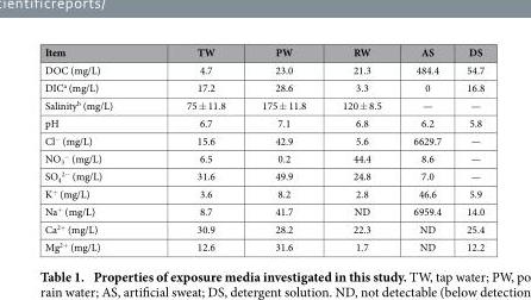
<table><thead><tr><td>Item</td><td>TW</td><td>PW</td><td>RW</td><td>AS</td><td>DS</td></tr></thead><tbody><tr><td>DOC (mg/L)</td><td>4.7</td><td>23.0</td><td>21.3</td><td>484.4</td><td>54.7</td></tr><tr><td>DIC<sup>a</sup> (mg/L)</td><td>17.2</td><td>28.6</td><td>3.3</td><td>0</td><td>16.8</td></tr><tr><td>Salinity<sup>b</sup> (mg/L)</td><td>75 ± 11.8</td><td>175 ± 11.8</td><td>120 ± 8.5</td><td>—</td><td>—</td></tr><tr><td>pH</td><td>6.7</td><td>7.1</td><td>6.8</td><td>6.2</td><td>5.8</td></tr><tr><td>Cl<sup>−</sup> (mg/L)</td><td>15.6</td><td>42.9</td><td>5.6</td><td>6629.7</td><td>—</td></tr><tr><td>NO<sub>3</sub> <sup>−</sup> (mg/L)</td><td>6.5</td><td>0.2</td><td>44.4</td><td>8.6</td><td>—</td></tr><tr><td>SO<sub>4</sub> <sup>2−</sup> (mg/L)</td><td>31.6</td><td>49.9</td><td>24.8</td><td>7.0</td><td>—</td></tr><tr><td>K<sup>+</sup> (mg/L)</td><td>3.6</td><td>8.2</td><td>2.8</td><td>46.6</td><td>5.9</td></tr><tr><td>Na<sup>+</sup> (mg/L)</td><td>8.7</td><td>41.7</td><td>ND</td><td>6959.4</td><td>14.0</td></tr><tr><td>Ca<sup>2+</sup> (mg/L)</td><td>30.9</td><td>28.2</td><td>22.3</td><td>ND</td><td>25.4</td></tr><tr><td>Mg<sup>2+</sup> (mg/L)</td><td>12.6</td><td>31.6</td><td>1.7</td><td>ND</td><td>12.2</td></tr></tbody></table>